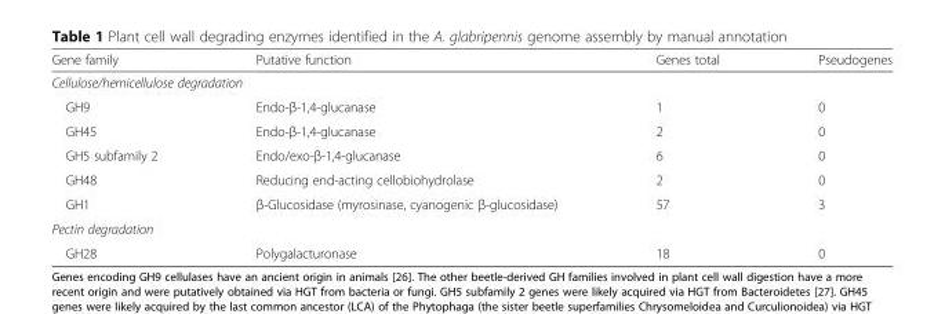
<table><thead><tr><td>Gene family</td><td>Putative function</td><td>Genes total</td><td>Pseudogenes</td></tr></thead><tbody><tr><td colspan="4">Cellulose/hemicellulose degradation</td></tr><tr><td>GH9</td><td>Endo-β-1,4-glucanase</td><td>1</td><td>0</td></tr><tr><td>GH45</td><td>Endo-β-1,4-glucanase</td><td>2</td><td>0</td></tr><tr><td>GH5 subfamily 2</td><td>Endo/exo-β-1,4-glucanase</td><td>6</td><td>0</td></tr><tr><td>GH48</td><td>Reducing end-acting cellobiohydrolase</td><td>2</td><td>0</td></tr><tr><td>GH1</td><td>β-Glucosidase (myrosinase, cyanogenic β-glucosidase)</td><td>57</td><td>3</td></tr><tr><td colspan="4">Pectin degradation</td></tr><tr><td>GH28</td><td>Polygalacturonase</td><td>18</td><td>0</td></tr></tbody></table>